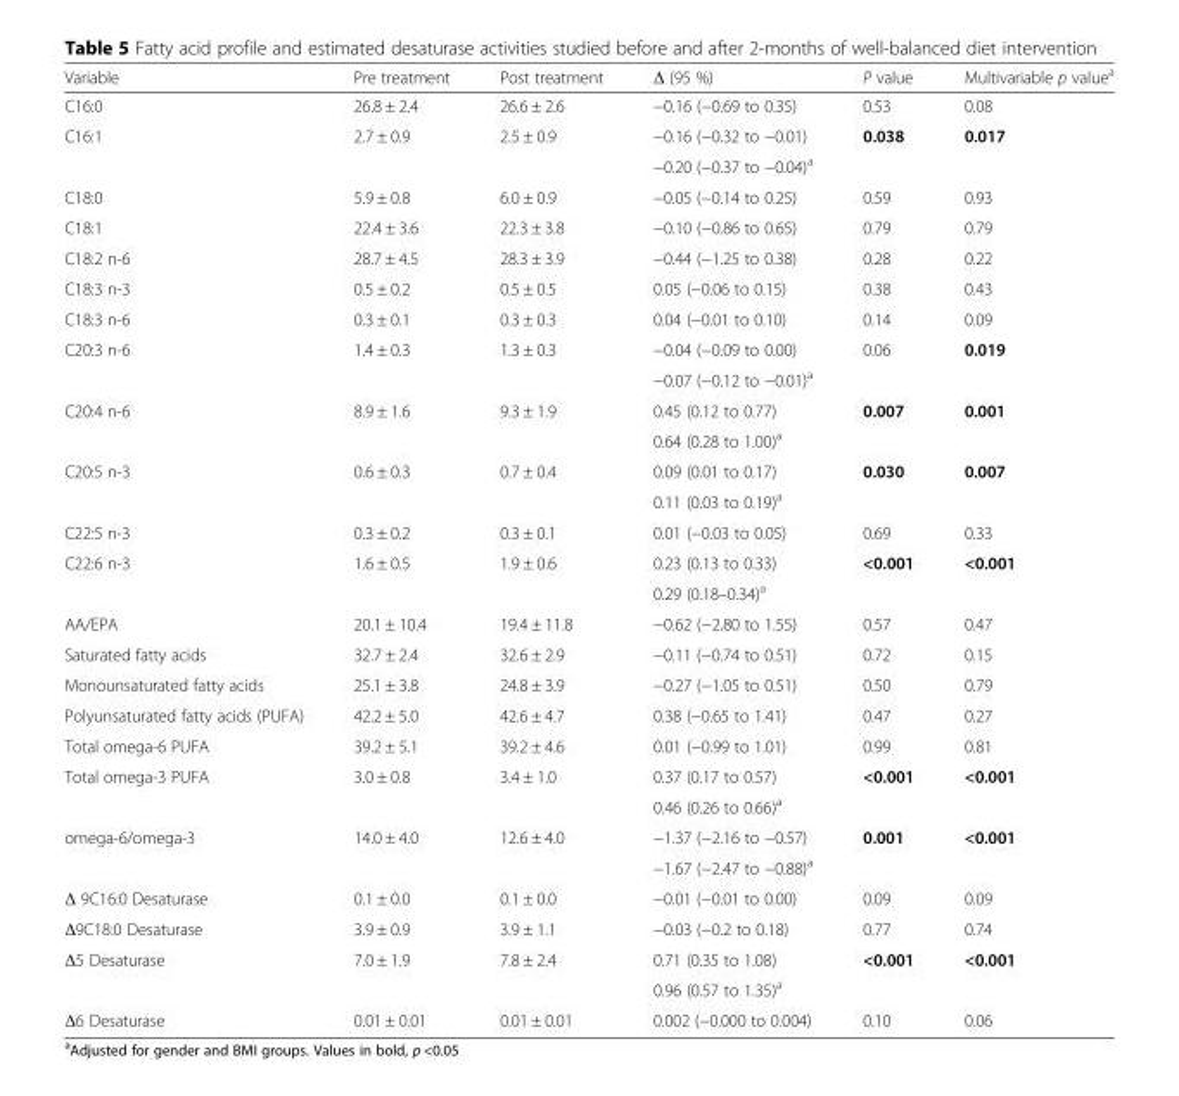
<table><thead><tr><td>Variable</td><td>Pre treatment</td><td>Post treatment</td><td>Δ (95 %)</td><td>P value</td><td>Multivariable p value<sup>a</sup></td></tr></thead><tbody><tr><td>C16:0</td><td>26.8 ± 2.4</td><td>26.6 ± 2.6</td><td>−0.16 (−0.69 to 0.35)</td><td>0.53</td><td>0.08</td></tr><tr><td rowspan="2">C16:1</td><td rowspan="2">2.7 ± 0.9</td><td rowspan="2">2.5 ± 0.9</td><td>−0.16 (−0.32 to −0.01)</td><td rowspan="2">0.038</td><td rowspan="2">0.017</td></tr><tr><td>−0.20 (−0.37 to −0.04)<sup>a</sup></td></tr><tr><td>C18:0</td><td>5.9 ± 0.8</td><td>6.0 ± 0.9</td><td>−0.05 (−0.14 to 0.25)</td><td>0.59</td><td>0.93</td></tr><tr><td>C18:1</td><td>22.4 ± 3.6</td><td>22.3 ± 3.8</td><td>−0.10 (−0.86 to 0.65)</td><td>0.79</td><td>0.79</td></tr><tr><td>C18:2 n-6</td><td>28.7 ± 4.5</td><td>28.3 ± 3.9</td><td>−0.44 (−1.25 to 0.38)</td><td>0.28</td><td>0.22</td></tr><tr><td>C18:3 n-3</td><td>0.5 ± 0.2</td><td>0.5 ± 0.5</td><td>0.05 (−0.06 to 0.15)</td><td>0.38</td><td>0.43</td></tr><tr><td>C18:3 n-6</td><td>0.3 ± 0.1</td><td>0.3 ± 0.3</td><td>0.04 (−0.01 to 0.10)</td><td>0.14</td><td>0.09</td></tr><tr><td rowspan="2">C20:3 n-6</td><td rowspan="2">1.4 ± 0.3</td><td rowspan="2">1.3 ± 0.3</td><td>−0.04 (−0.09 to 0.00)</td><td rowspan="2">0.06</td><td rowspan="2">0.019</td></tr><tr><td>−0.07 (−0.12 to −0.01)<sup>a</sup></td></tr><tr><td rowspan="2">C20:4 n-6</td><td rowspan="2">8.9 ± 1.6</td><td rowspan="2">9.3 ± 1.9</td><td>0.45 (0.12 to 0.77)</td><td rowspan="2">0.007</td><td rowspan="2">0.001</td></tr><tr><td>0.64 (0.28 to 1.00)<sup>a</sup></td></tr><tr><td rowspan="2">C20:5 n-3</td><td rowspan="2">0.6 ± 0.3</td><td rowspan="2">0.7 ± 0.4</td><td>0.09 (0.01 to 0.17)</td><td rowspan="2">0.030</td><td rowspan="2">0.007</td></tr><tr><td>0.11 (0.03 to 0.19)<sup>a</sup></td></tr><tr><td>C22:5 n-3</td><td>0.3 ± 0.2</td><td>0.3 ± 0.1</td><td>0.01 (−0.03 to 0.05)</td><td>0.69</td><td>0.33</td></tr><tr><td rowspan="2">C22:6 n-3</td><td rowspan="2">1.6 ± 0.5</td><td rowspan="2">1.9 ± 0.6</td><td>0.23 (0.13 to 0.33)</td><td rowspan="2">&lt;0.001</td><td rowspan="2">&lt;0.001</td></tr><tr><td>0.29 (0.18–0.34)<sup>a</sup></td></tr><tr><td>AA/EPA</td><td>20.1 ± 10.4</td><td>19.4 ± 11.8</td><td>−0.62 (−2.80 to 1.55)</td><td>0.57</td><td>0.47</td></tr><tr><td>Saturated fatty acids</td><td>32.7 ± 2.4</td><td>32.6 ± 2.9</td><td>−0.11 (−0.74 to 0.51)</td><td>0.72</td><td>0.15</td></tr><tr><td>Monounsaturated fatty acids</td><td>25.1 ± 3.8</td><td>24.8 ± 3.9</td><td>−0.27 (−1.05 to 0.51)</td><td>0.50</td><td>0.79</td></tr><tr><td>Polyunsaturated fatty acids (PUFA)</td><td>42.2 ± 5.0</td><td>42.6 ± 4.7</td><td>0.38 (−0.65 to 1.41)</td><td>0.47</td><td>0.27</td></tr><tr><td>Total omega-6 PUFA</td><td>39.2 ± 5.1</td><td>39.2 ± 4.6</td><td>0.01 (−0.99 to 1.01)</td><td>0.99</td><td>0.81</td></tr><tr><td rowspan="2">Total omega-3 PUFA</td><td rowspan="2">3.0 ± 0.8</td><td rowspan="2">3.4 ± 1.0</td><td>0.37 (0.17 to 0.57)</td><td rowspan="2">&lt;0.001</td><td rowspan="2">&lt;0.001</td></tr><tr><td>0.46 (0.26 to 0.66)<sup>a</sup></td></tr><tr><td rowspan="2">omega-6/omega-3</td><td rowspan="2">14.0 ± 4.0</td><td rowspan="2">12.6 ± 4.0</td><td>−1.37 (−2.16 to −0.57)</td><td rowspan="2">0.001</td><td rowspan="2">&lt;0.001</td></tr><tr><td>−1.67 (−2.47 to −0.88)<sup>a</sup></td></tr><tr><td>Δ 9C16:0 Desaturase</td><td>0.1 ± 0.0</td><td>0.1 ± 0.0</td><td>−0.01 (−0.01 to 0.00)</td><td>0.09</td><td>0.09</td></tr><tr><td>Δ9C18:0 Desaturase</td><td>3.9 ± 0.9</td><td>3.9 ± 1.1</td><td>−0.03 (−0.2 to 0.18)</td><td>0.77</td><td>0.74</td></tr><tr><td rowspan="2">Δ5 Desaturase</td><td rowspan="2">7.0 ± 1.9</td><td rowspan="2">7.8 ± 2.4</td><td>0.71 (0.35 to 1.08)</td><td rowspan="2">&lt;0.001</td><td rowspan="2">&lt;0.001</td></tr><tr><td>0.96 (0.57 to 1.35)<sup>a</sup></td></tr><tr><td>Δ6 Desaturase</td><td>0.01 ± 0.01</td><td>0.01 ± 0.01</td><td>0.002 (−0.000 to 0.004)</td><td>0.10</td><td>0.06</td></tr></tbody></table>